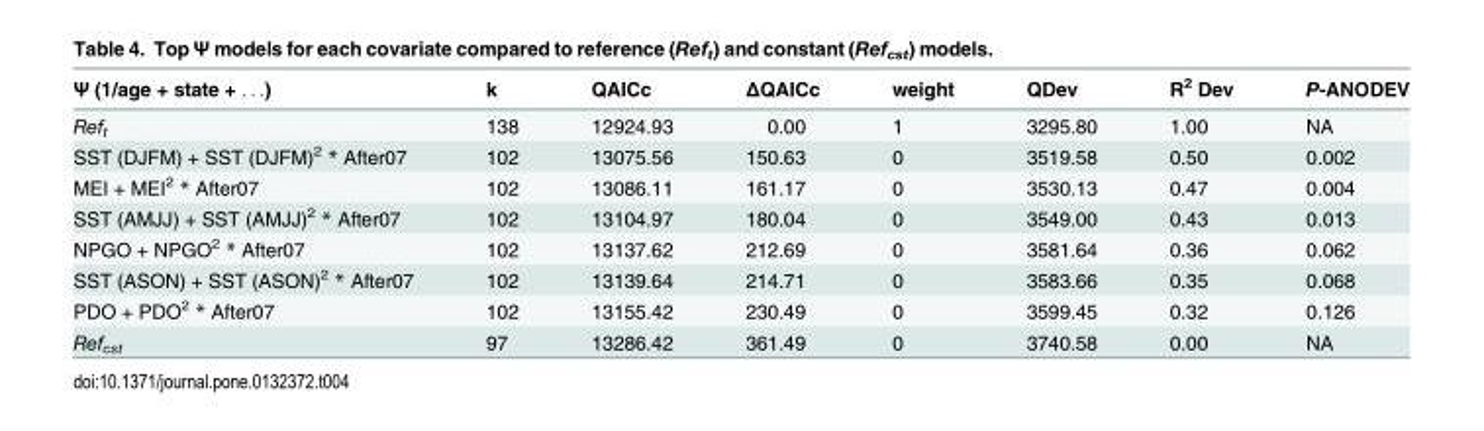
<table><thead><tr><td>Ψ (1/age + state + . . .)</td><td>k</td><td>QAICc</td><td>ΔQAICc</td><td>weight</td><td>QDev</td><td>R<sup>2</sup> Dev</td><td>P-ANODEV</td></tr></thead><tbody><tr><td>Ref<sub>t</sub></td><td>138</td><td>12924.93</td><td>0.00</td><td>1</td><td>3295.80</td><td>1.00</td><td>NA</td></tr><tr><td>SST (DJFM) + SST (DJFM)<sup>2</sup> * After07</td><td>102</td><td>13075.56</td><td>150.63</td><td>0</td><td>3519.58</td><td>0.50</td><td>0.002</td></tr><tr><td>MEI + MEI<sup>2</sup> * After07</td><td>102</td><td>13086.11</td><td>161.17</td><td>0</td><td>3530.13</td><td>0.47</td><td>0.004</td></tr><tr><td>SST (AMJJ) + SST (AMJJ)<sup>2</sup> * After07</td><td>102</td><td>13104.97</td><td>180.04</td><td>0</td><td>3549.00</td><td>0.43</td><td>0.013</td></tr><tr><td>NPGO + NPGO<sup>2</sup> * After07</td><td>102</td><td>13137.62</td><td>212.69</td><td>0</td><td>3581.64</td><td>0.36</td><td>0.062</td></tr><tr><td>SST (ASON) + SST (ASON)<sup>2</sup> * After07</td><td>102</td><td>13139.64</td><td>214.71</td><td>0</td><td>3583.66</td><td>0.35</td><td>0.068</td></tr><tr><td>PDO + PDO<sup>2</sup> * After07</td><td>102</td><td>13155.42</td><td>230.49</td><td>0</td><td>3599.45</td><td>0.32</td><td>0.126</td></tr><tr><td>Ref<sub>cst</sub></td><td>97</td><td>13286.42</td><td>361.49</td><td>0</td><td>3740.58</td><td>0.00</td><td>NA</td></tr></tbody></table>